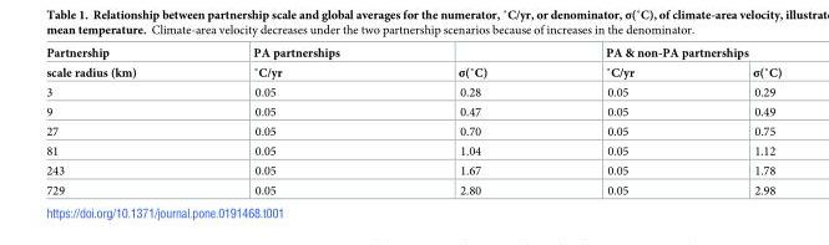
<table><thead><tr><td rowspan="2">Partnership scale radius (km)</td><td rowspan="2">PA partnerships ˚C/yr</td><td rowspan="2">σ(˚C)</td><td colspan="2">PA &amp; non-PA partnerships</td></tr><tr><td>˚C/yr</td><td>σ(˚C)</td></tr></thead><tbody><tr><td>3</td><td>0.05</td><td>0.28</td><td>0.05</td><td>0.29</td></tr><tr><td>9</td><td>0.05</td><td>0.47</td><td>0.05</td><td>0.49</td></tr><tr><td>27</td><td>0.05</td><td>0.70</td><td>0.05</td><td>0.75</td></tr><tr><td>81</td><td>0.05</td><td>1.04</td><td>0.05</td><td>1.12</td></tr><tr><td>243</td><td>0.05</td><td>1.67</td><td>0.05</td><td>1.78</td></tr><tr><td>729</td><td>0.05</td><td>2.80</td><td>0.05</td><td>2.98</td></tr></tbody></table>